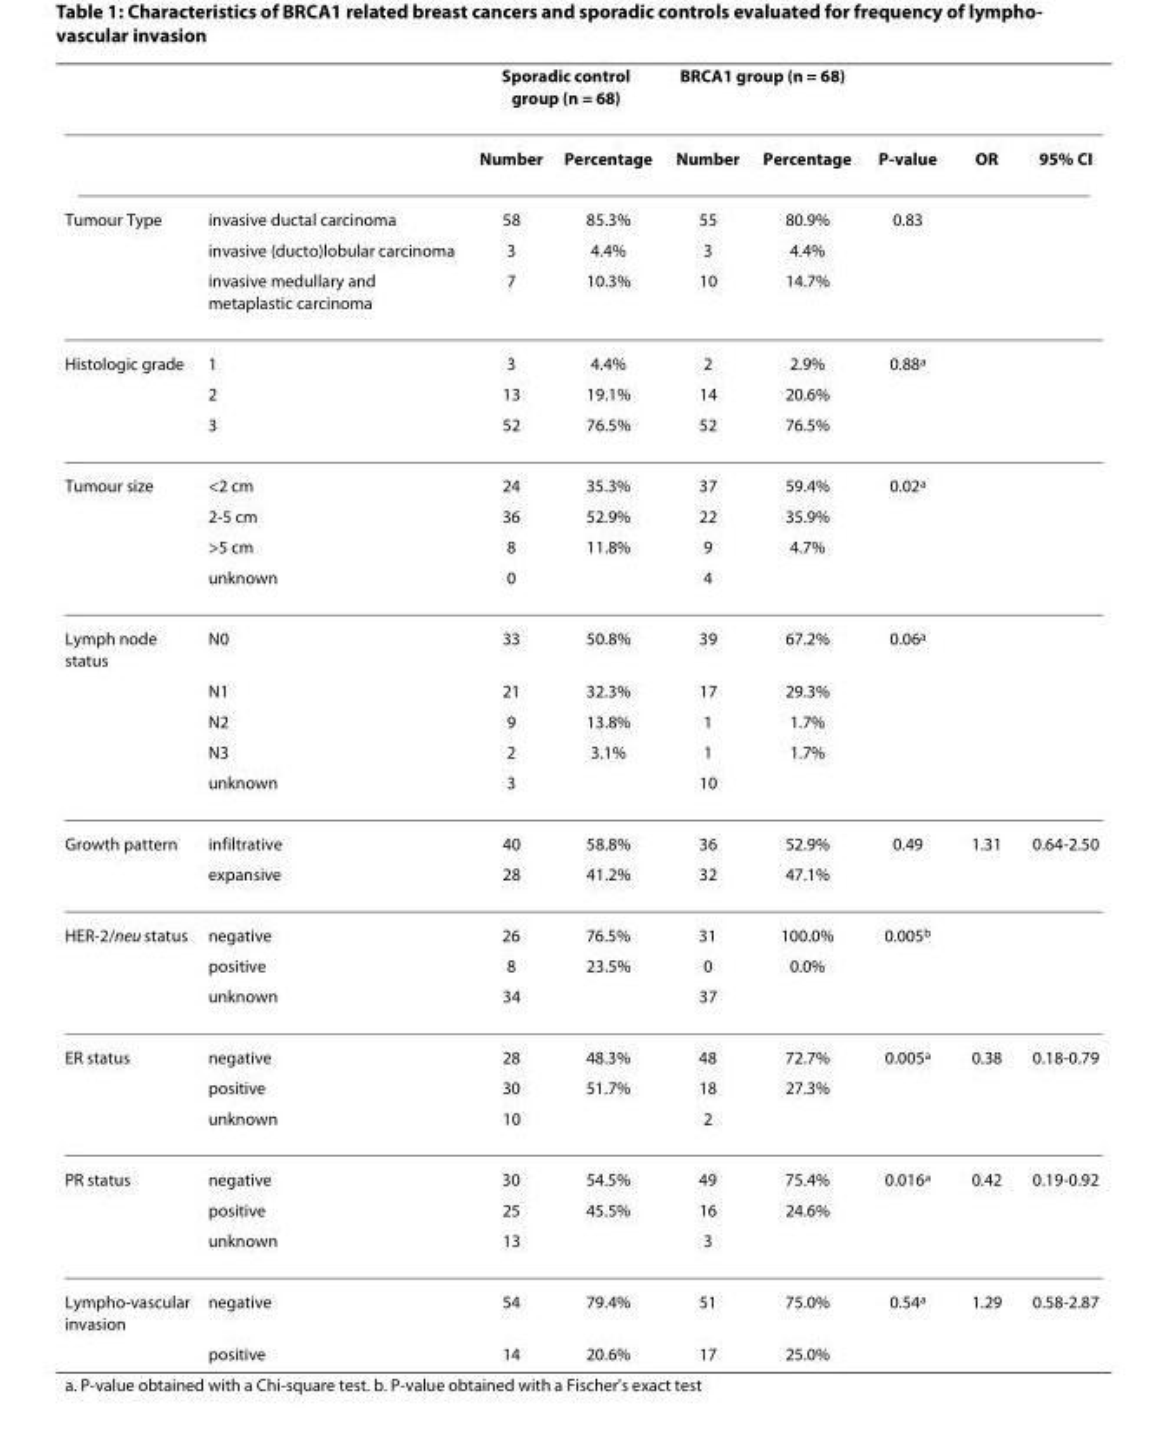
<table><thead><tr><td rowspan="2"></td><td rowspan="2"></td><td colspan="2">Sporadic control group (n = 68)</td><td colspan="2">BRCA1 group (n = 68)</td><td rowspan="2">P-value</td><td rowspan="2">OR</td><td rowspan="2">95% CI</td></tr><tr><td>Number</td><td>Percentage</td><td>Number</td><td>Percentage</td></tr></thead><tbody><tr><td rowspan="3">Tumour Type</td><td>invasive ductal carcinoma</td><td>58</td><td>85.3%</td><td>55</td><td>80.9%</td><td>0.83</td><td></td><td></td></tr><tr><td>invasive (ducto)lobular carcinoma</td><td>3</td><td>4.4%</td><td>3</td><td>4.4%</td><td></td><td></td><td></td></tr><tr><td>invasive medullary and metaplastic carcinoma</td><td>7</td><td>10.3%</td><td>10</td><td>14.7%</td><td></td><td></td><td></td></tr><tr><td rowspan="3">Histologic grade</td><td>1</td><td>3</td><td>4.4%</td><td>2</td><td>2.9%</td><td>0.88<sup>a</sup></td><td></td><td></td></tr><tr><td>2</td><td>13</td><td>19.1%</td><td>14</td><td>20.6%</td><td></td><td></td><td></td></tr><tr><td>3</td><td>52</td><td>76.5%</td><td>52</td><td>76.5%</td><td></td><td></td><td></td></tr><tr><td rowspan="4">Tumour size</td><td>&lt;2 cm</td><td>24</td><td>35.3%</td><td>37</td><td>59.4%</td><td>0.02<sup>a</sup></td><td></td><td></td></tr><tr><td>2-5 cm</td><td>36</td><td>52.9%</td><td>22</td><td>35.9%</td><td></td><td></td><td></td></tr><tr><td>&gt;5 cm</td><td>8</td><td>11.8%</td><td>9</td><td>4.7%</td><td></td><td></td><td></td></tr><tr><td>unknown</td><td>0</td><td></td><td>4</td><td></td><td></td><td></td><td></td></tr><tr><td rowspan="5">Lymph node status</td><td>N0</td><td>33</td><td>50.8%</td><td>39</td><td>67.2%</td><td>0.06<sup>a</sup></td><td></td><td></td></tr><tr><td>N1</td><td>21</td><td>32.3%</td><td>17</td><td>29.3%</td><td></td><td></td><td></td></tr><tr><td>N2</td><td>9</td><td>13.8%</td><td>1</td><td>1.7%</td><td></td><td></td><td></td></tr><tr><td>N3</td><td>2</td><td>3.1%</td><td>1</td><td>1.7%</td><td></td><td></td><td></td></tr><tr><td>unknown</td><td>3</td><td></td><td>10</td><td></td><td></td><td></td><td></td></tr><tr><td rowspan="2">Growth pattern</td><td>infiltrative</td><td>40</td><td>58.8%</td><td>36</td><td>52.9%</td><td>0.49</td><td>1.31</td><td>0.64-2.50</td></tr><tr><td>expansive</td><td>28</td><td>41.2%</td><td>32</td><td>47.1%</td><td></td><td></td><td></td></tr><tr><td rowspan="3">HER-2/neu status</td><td>negative</td><td>26</td><td>76.5%</td><td>31</td><td>100.0%</td><td>0.005<sup>b</sup></td><td></td><td></td></tr><tr><td>positive</td><td>8</td><td>23.5%</td><td>0</td><td>0.0%</td><td></td><td></td><td></td></tr><tr><td>unknown</td><td>34</td><td></td><td>37</td><td></td><td></td><td></td><td></td></tr><tr><td rowspan="3">ER status</td><td>negative</td><td>28</td><td>48.3%</td><td>48</td><td>72.7%</td><td>0.005<sup>a</sup></td><td>0.38</td><td>0.18-0.79</td></tr><tr><td>positive</td><td>30</td><td>51.7%</td><td>18</td><td>27.3%</td><td></td><td></td><td></td></tr><tr><td>unknown</td><td>10</td><td></td><td>2</td><td></td><td></td><td></td><td></td></tr><tr><td rowspan="3">PR status</td><td>negative</td><td>30</td><td>54.5%</td><td>49</td><td>75.4%</td><td>0.016<sup>a</sup></td><td>0.42</td><td>0.19-0.92</td></tr><tr><td>positive</td><td>25</td><td>45.5%</td><td>16</td><td>24.6%</td><td></td><td></td><td></td></tr><tr><td>unknown</td><td>13</td><td></td><td>3</td><td></td><td></td><td></td><td></td></tr><tr><td rowspan="2">Lympho-vascular invasion</td><td>negative</td><td>54</td><td>79.4%</td><td>51</td><td>75.0%</td><td>0.54<sup>a</sup></td><td>1.29</td><td>0.58-2.87</td></tr><tr><td>positive</td><td>14</td><td>20.6%</td><td>17</td><td>25.0%</td><td></td><td></td><td></td></tr></tbody></table>